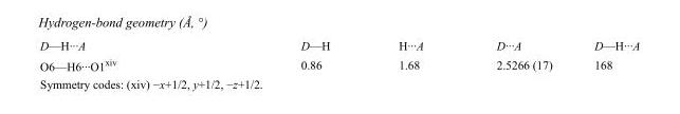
<table><tbody><tr><td>D—H···A</td><td>D—H</td><td>H···A</td><td>D···A</td><td>D—H···A</td></tr><tr><td>O6—H6···O1<sup>xiv</sup></td><td>0.86</td><td>1.68</td><td>2.5266 (17)</td><td>168</td></tr></tbody></table>